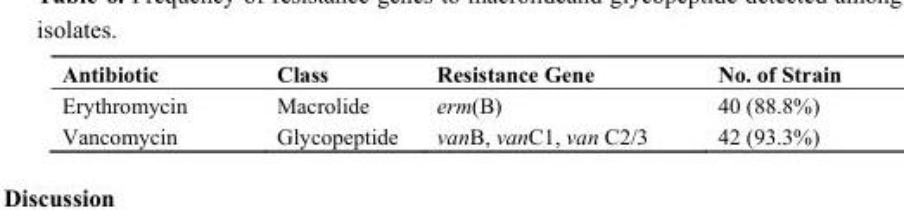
<table><thead><tr><td>Antibiotic</td><td>Class</td><td>Resistance Gene</td><td>No. of Strain</td></tr></thead><tbody><tr><td>Erythromycin</td><td>Macrolide</td><td>erm(B)</td><td>40 (88.8%)</td></tr><tr><td>Vancomycin</td><td>Glycopeptide</td><td>vanB, vanC1, van C2/3</td><td>42 (93.3%)</td></tr></tbody></table>